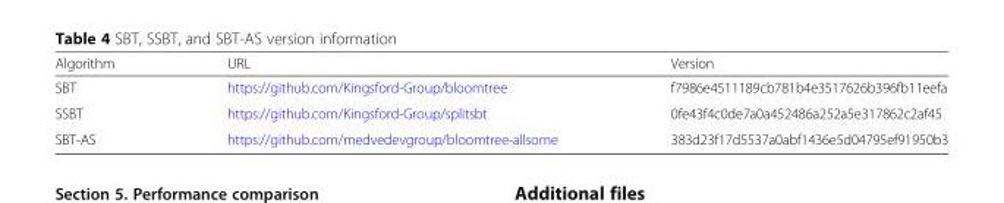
<table><thead><tr><td>Algorithm</td><td>URL</td><td>Version</td></tr></thead><tbody><tr><td>SBT</td><td>https://github.com/Kingsford-Group/bloomtree</td><td>f7986e4511189cb781b4e3517626b396fb11eefa</td></tr><tr><td>SSBT</td><td>https://github.com/Kingsford-Group/splitsbt</td><td>0fe43f4c0de7a0a452486a252a5e317862c2af45</td></tr><tr><td>SBT-AS</td><td>https://github.com/medvedevgroup/bloomtree-allsome</td><td>383d23f17d5537a0abf1436e5d04795ef91950b3</td></tr></tbody></table>